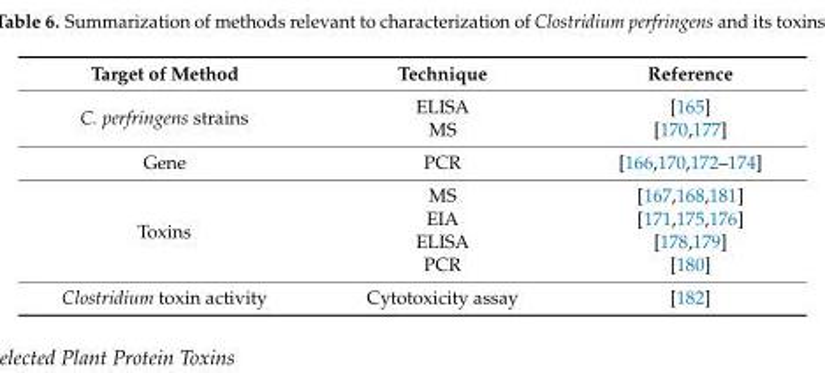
<table><thead><tr><td>Target of Method</td><td>Technique</td><td>Reference</td></tr></thead><tbody><tr><td rowspan="2">C. perfringens strains</td><td>ELISA</td><td>[165]</td></tr><tr><td>MS</td><td>[170,177]</td></tr><tr><td>Gene</td><td>PCR</td><td>[166,170,172–174]</td></tr><tr><td rowspan="4">Toxins</td><td>MS</td><td>[167,168,181]</td></tr><tr><td>EIA</td><td>[171,175,176]</td></tr><tr><td>ELISA</td><td>[178,179]</td></tr><tr><td>PCR</td><td>[180]</td></tr><tr><td>Clostridium toxin activity</td><td>Cytotoxicity assay</td><td>[182]</td></tr></tbody></table>